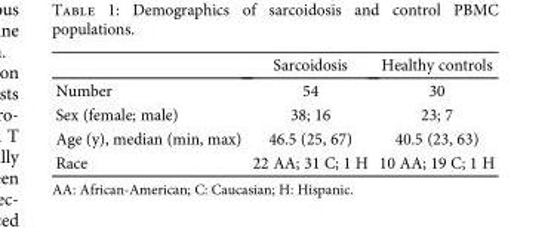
<table><thead><tr><td></td><td>Sarcoidosis</td><td>Healthy controls</td></tr></thead><tbody><tr><td>Number</td><td>54</td><td>30</td></tr><tr><td>Sex (female; male)</td><td>38; 16</td><td>23; 7</td></tr><tr><td>Age (y), median (min, max)</td><td>46.5 (25, 67)</td><td>40.5 (23, 63)</td></tr><tr><td>Race</td><td>22 AA; 31 C; 1 H</td><td>10 AA; 19 C; 1 H</td></tr></tbody></table>